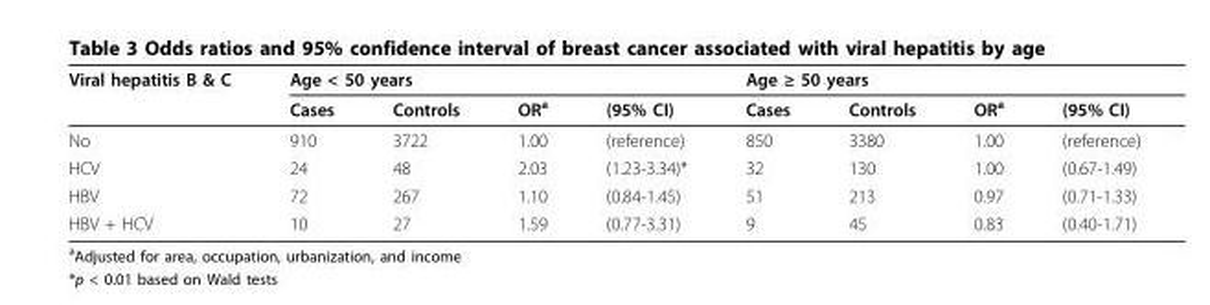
<table><thead><tr><td rowspan="2">Viral hepatitis B &amp; C</td><td colspan="4">Age &lt; 50 years</td><td colspan="4">Age ≥ 50 years</td></tr><tr><td>Cases</td><td>Controls</td><td>OR<sup>a</sup></td><td>(95% CI)</td><td>Cases</td><td>Controls</td><td>OR<sup>a</sup></td><td>(95% CI)</td></tr></thead><tbody><tr><td>No</td><td>910</td><td>3722</td><td>1.00</td><td>(reference)</td><td>850</td><td>3380</td><td>1.00</td><td>(reference)</td></tr><tr><td>HCV</td><td>24</td><td>48</td><td>2.03</td><td>(1.23-3.34)*</td><td>32</td><td>130</td><td>1.00</td><td>(0.67-1.49)</td></tr><tr><td>HBV</td><td>72</td><td>267</td><td>1.10</td><td>(0.84-1.45)</td><td>51</td><td>213</td><td>0.97</td><td>(0.71-1.33)</td></tr><tr><td>HBV + HCV</td><td>10</td><td>27</td><td>1.59</td><td>(0.77-3.31)</td><td>9</td><td>45</td><td>0.83</td><td>(0.40-1.71)</td></tr></tbody></table>